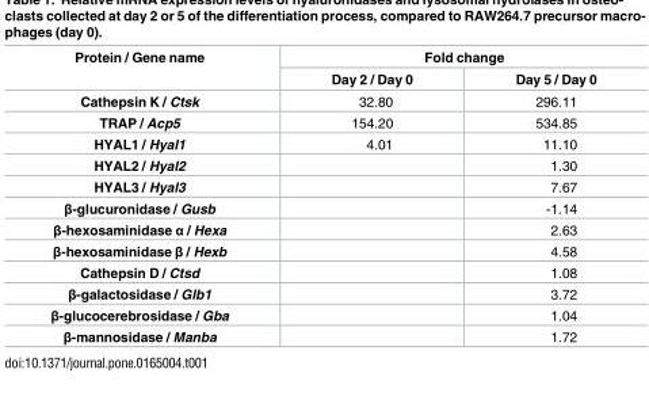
<table><thead><tr><td rowspan="2">Protein / Gene name</td><td colspan="2">Fold change</td></tr><tr><td>Day 2 / Day 0</td><td>Day 5 / Day 0</td></tr></thead><tbody><tr><td>Cathepsin K / Ctsk</td><td>32.80</td><td>296.11</td></tr><tr><td>TRAP / Acp5</td><td>154.20</td><td>534.85</td></tr><tr><td>HYAL1 / Hyal1</td><td>4.01</td><td>11.10</td></tr><tr><td>HYAL2 / Hyal2</td><td></td><td>1.30</td></tr><tr><td>HYAL3 / Hyal3</td><td></td><td>7.67</td></tr><tr><td>β-glucuronidase / Gusb</td><td></td><td>-1.14</td></tr><tr><td>β-hexosaminidase α / Hexa</td><td></td><td>2.63</td></tr><tr><td>β-hexosaminidase β / Hexb</td><td></td><td>4.58</td></tr><tr><td>Cathepsin D / Ctsd</td><td></td><td>1.08</td></tr><tr><td>β-galactosidase / Glb1</td><td></td><td>3.72</td></tr><tr><td>β-glucocerebrosidase / Gba</td><td></td><td>1.04</td></tr><tr><td>β-mannosidase / Manba</td><td></td><td>1.72</td></tr></tbody></table>